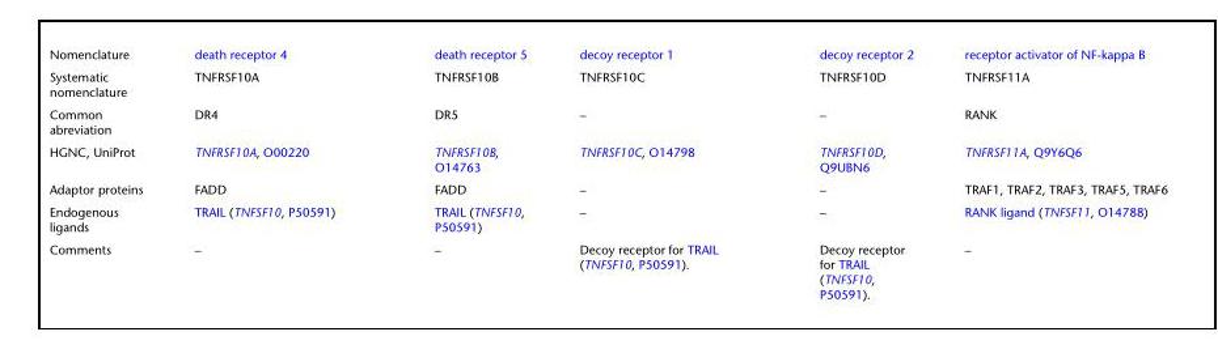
<table><tbody><tr><td>Nomenclature</td><td>death receptor 4</td><td>death receptor 5</td><td>decoy receptor 1</td><td>decoy receptor 2</td><td>receptor activator of NF-kappa B</td></tr><tr><td>Systematic nomenclature</td><td>TNFRSF10A</td><td>TNFRSF10B</td><td>TNFRSF10C</td><td>TNFRSF10D</td><td>TNFRSF11A</td></tr><tr><td>Common abreviation</td><td>DR4</td><td>DR5</td><td>–</td><td>–</td><td>RANK</td></tr><tr><td>HGNC, UniProt</td><td>TNFRSF10A, O00220</td><td>TNFRSF10B, O14763</td><td>TNFRSF10C, O14798</td><td>TNFRSF10D, Q9UBN6</td><td>TNFRSF11A, Q9Y6Q6</td></tr><tr><td>Adaptor proteins</td><td>FADD</td><td>FADD</td><td>–</td><td>–</td><td>TRAF1, TRAF2, TRAF3, TRAF5, TRAF6</td></tr><tr><td>Endogenous ligands</td><td>TRAIL (TNFSF10, P50591)</td><td>TRAIL (TNFSF10, P50591)</td><td>–</td><td>–</td><td>RANK ligand (TNFSF11, O14788)</td></tr><tr><td>Comments</td><td>–</td><td>–</td><td>Decoy receptor for TRAIL (TNFSF10, P50591).</td><td>Decoy receptor for TRAIL (TNFSF10, P50591).</td><td>–</td></tr></tbody></table>